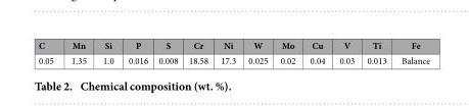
<table><thead><tr><td>C</td><td>Mn</td><td>Si</td><td>P</td><td>S</td><td>Cr</td><td>Ni</td><td>W</td><td>Mo</td><td>Cu</td><td>V</td><td>Ti</td><td>Fe</td></tr></thead><tbody><tr><td>0.05</td><td>1.35</td><td>1.0</td><td>0.016</td><td>0.008</td><td>18.58</td><td>17.3</td><td>0.025</td><td>0.02</td><td>0.04</td><td>0.03</td><td>0.013</td><td>Balance</td></tr></tbody></table>